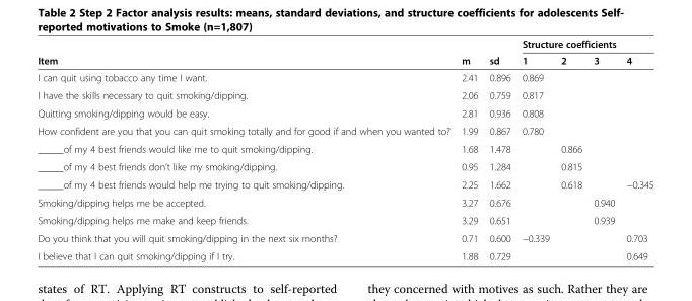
<table><thead><tr><td rowspan="2">Item</td><td rowspan="2">m</td><td rowspan="2">sd</td><td colspan="4">Structure coefficients</td></tr><tr><td>1</td><td>2</td><td>3</td><td>4</td></tr></thead><tbody><tr><td>I can quit using tobacco any time I want.</td><td>2.41</td><td>0.896</td><td>0.869</td><td></td><td></td><td></td></tr><tr><td>I have the skills necessary to quit smoking/dipping.</td><td>2.06</td><td>0.759</td><td>0.817</td><td></td><td></td><td></td></tr><tr><td>Quitting smoking/dipping would be easy.</td><td>2.81</td><td>0.936</td><td>0.808</td><td></td><td></td><td></td></tr><tr><td>How confident are you that you can quit smoking totally and for good if and when you wanted to?</td><td>1.99</td><td>0.867</td><td>0.780</td><td></td><td></td><td></td></tr><tr><td>_____of my 4 best friends would like me to quit smoking/dipping.</td><td>1.68</td><td>1.478</td><td></td><td>0.866</td><td></td><td></td></tr><tr><td>_____of my 4 best friends don’t like my smoking/dipping.</td><td>0.95</td><td>1.284</td><td></td><td>0.815</td><td></td><td></td></tr><tr><td>_____of my 4 best friends would help me trying to quit smoking/dipping.</td><td>2.25</td><td>1.662</td><td></td><td>0.618</td><td></td><td>−0.345</td></tr><tr><td>Smoking/dipping helps me be accepted.</td><td>3.27</td><td>0.676</td><td></td><td></td><td>0.940</td><td></td></tr><tr><td>Smoking/dipping helps me make and keep friends.</td><td>3.29</td><td>0.651</td><td></td><td></td><td>0.939</td><td></td></tr><tr><td>Do you think that you will quit smoking/dipping in the next six months?</td><td>0.71</td><td>0.600</td><td>−0.339</td><td></td><td></td><td>0.703</td></tr><tr><td>I believe that I can quit smoking/dipping if I try.</td><td>1.88</td><td>0.729</td><td></td><td></td><td></td><td>0.649</td></tr></tbody></table>